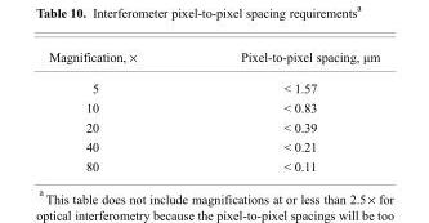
<table><thead><tr><td>Magnification, ×</td><td>Pixel-to-pixel spacing, μm</td></tr></thead><tbody><tr><td>5</td><td>&lt; 1.57</td></tr><tr><td>10</td><td>&lt; 0.83</td></tr><tr><td>20</td><td>&lt; 0.39</td></tr><tr><td>40</td><td>&lt; 0.21</td></tr><tr><td>80</td><td>&lt; 0.11</td></tr></tbody></table>